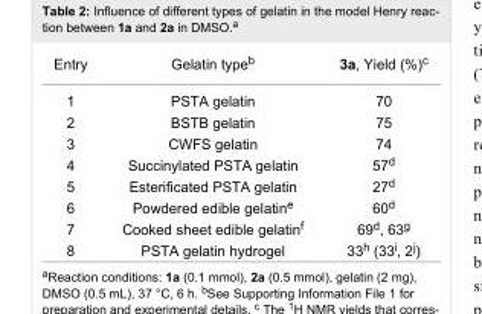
<table><tbody><tr><td>Entry</td><td>Gelatin type<sup>b</sup></td><td>3a, Yield (%)<sup>c</sup></td></tr><tr><td>1</td><td>PSTA gelatin</td><td>70</td></tr><tr><td>2</td><td>BSTB gelatin</td><td>75</td></tr><tr><td>3</td><td>CWFS gelatin</td><td>74</td></tr><tr><td>4</td><td>Succinylated PSTA gelatin</td><td>57<sup>d</sup></td></tr><tr><td>5</td><td>Esterificated PSTA gelatin</td><td>27<sup>d</sup></td></tr><tr><td>6</td><td>Powdered edible gelatin<sup>e</sup></td><td>60<sup>d</sup></td></tr><tr><td>7</td><td>Cooked sheet edible gelatin<sup>f</sup></td><td>69<sup>d</sup>, 63<sup>g</sup></td></tr><tr><td>8</td><td>PSTA gelatin hydrogel</td><td>33<sup>h</sup> (33<sup>i</sup>, 2<sup>j</sup>)</td></tr></tbody></table>